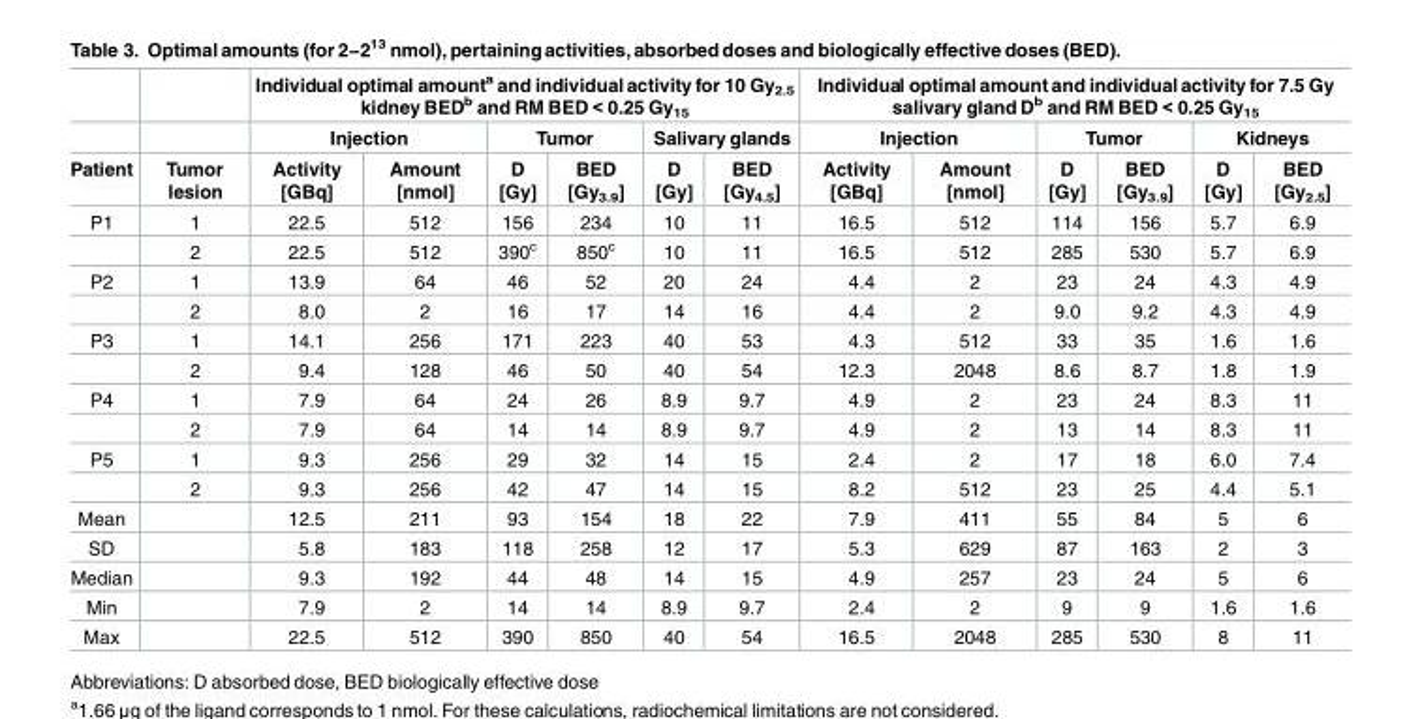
<table><thead><tr><td rowspan="3">Patient</td><td rowspan="3">Tumor lesion</td><td colspan="6">Individual optimal amount<sup>a</sup> and individual activity for 10 Gy<sub>2.5</sub> kidney BED<sup>b</sup> and RM BED &lt; 0.25 Gy<sub>15</sub></td><td colspan="6">Individual optimal amount and individual activity for 7.5 Gy salivary gland D<sup>b</sup> and RM BED &lt; 0.25 Gy<sub>15</sub></td></tr><tr><td colspan="2">Injection</td><td colspan="2">Tumor</td><td colspan="2">Salivary glands</td><td colspan="2">Injection</td><td colspan="2">Tumor</td><td colspan="2">Kidneys</td></tr><tr><td>Activity [GBq]</td><td>Amount [nmol]</td><td>D [Gy]</td><td>BED [Gy<sub>3.9</sub>]</td><td>D [Gy]</td><td>BED [Gy<sub>4.5</sub>]</td><td>Activity [GBq]</td><td>Amount [nmol]</td><td>D [Gy]</td><td>BED [Gy<sub>3.9</sub>]</td><td>D [Gy]</td><td>BED [Gy<sub>2.5</sub>]</td></tr></thead><tbody><tr><td rowspan="2">P1</td><td>1</td><td>22.5</td><td>512</td><td>156</td><td>234</td><td>10</td><td>11</td><td>16.5</td><td>512</td><td>114</td><td>156</td><td>5.7</td><td>6.9</td></tr><tr><td>2</td><td>22.5</td><td>512</td><td>390<sup>c</sup></td><td>850<sup>c</sup></td><td>10</td><td>11</td><td>16.5</td><td>512</td><td>285</td><td>530</td><td>5.7</td><td>6.9</td></tr><tr><td rowspan="2">P2</td><td>1</td><td>13.9</td><td>64</td><td>46</td><td>52</td><td>20</td><td>24</td><td>4.4</td><td>2</td><td>23</td><td>24</td><td>4.3</td><td>4.9</td></tr><tr><td>2</td><td>8.0</td><td>2</td><td>16</td><td>17</td><td>14</td><td>16</td><td>4.4</td><td>2</td><td>9.0</td><td>9.2</td><td>4.3</td><td>4.9</td></tr><tr><td rowspan="2">P3</td><td>1</td><td>14.1</td><td>256</td><td>171</td><td>223</td><td>40</td><td>53</td><td>4.3</td><td>512</td><td>33</td><td>35</td><td>1.6</td><td>1.6</td></tr><tr><td>2</td><td>9.4</td><td>128</td><td>46</td><td>50</td><td>40</td><td>54</td><td>12.3</td><td>2048</td><td>8.6</td><td>8.7</td><td>1.8</td><td>1.9</td></tr><tr><td rowspan="2">P4</td><td>1</td><td>7.9</td><td>64</td><td>24</td><td>26</td><td>8.9</td><td>9.7</td><td>4.9</td><td>2</td><td>23</td><td>24</td><td>8.3</td><td>11</td></tr><tr><td>2</td><td>7.9</td><td>64</td><td>14</td><td>14</td><td>8.9</td><td>9.7</td><td>4.9</td><td>2</td><td>13</td><td>14</td><td>8.3</td><td>11</td></tr><tr><td rowspan="2">P5</td><td>1</td><td>9.3</td><td>256</td><td>29</td><td>32</td><td>14</td><td>15</td><td>2.4</td><td>2</td><td>17</td><td>18</td><td>6.0</td><td>7.4</td></tr><tr><td>2</td><td>9.3</td><td>256</td><td>42</td><td>47</td><td>14</td><td>15</td><td>8.2</td><td>512</td><td>23</td><td>25</td><td>4.4</td><td>5.1</td></tr><tr><td>Mean</td><td></td><td>12.5</td><td>211</td><td>93</td><td>154</td><td>18</td><td>22</td><td>7.9</td><td>411</td><td>55</td><td>84</td><td>5</td><td>6</td></tr><tr><td>SD</td><td></td><td>5.8</td><td>183</td><td>118</td><td>258</td><td>12</td><td>17</td><td>5.3</td><td>629</td><td>87</td><td>163</td><td>2</td><td>3</td></tr><tr><td>Median</td><td></td><td>9.3</td><td>192</td><td>44</td><td>48</td><td>14</td><td>15</td><td>4.9</td><td>257</td><td>23</td><td>24</td><td>5</td><td>6</td></tr><tr><td>Min</td><td></td><td>7.9</td><td>2</td><td>14</td><td>14</td><td>8.9</td><td>9.7</td><td>2.4</td><td>2</td><td>9</td><td>9</td><td>1.6</td><td>1.6</td></tr><tr><td>Max</td><td></td><td>22.5</td><td>512</td><td>390</td><td>850</td><td>40</td><td>54</td><td>16.5</td><td>2048</td><td>285</td><td>530</td><td>8</td><td>11</td></tr></tbody></table>